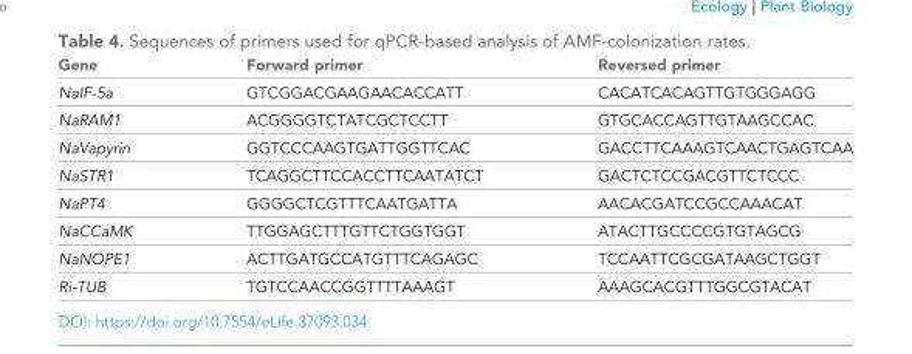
<table><thead><tr><td>Gene</td><td>Forward primer</td><td>Reversed primer</td></tr></thead><tbody><tr><td>NaIF-5a</td><td>GTCGGACGAAGAACACCATT</td><td>CACATCACAGTTGTGGGAGG</td></tr><tr><td>NaRAM1</td><td>ACGGGGTCTATCGCTCCTT</td><td>GTGCACCAGTTGTAAGCCAC</td></tr><tr><td>NaVapyrin</td><td>GGTCCCAAGTGATTGGTTCAC</td><td>GACCTTCAAAGTCAACTGAGTCAA</td></tr><tr><td>NaSTR1</td><td>TCAGGCTTCCACCTTCAATATCT</td><td>GACTCTCCGACGTTCTCCC</td></tr><tr><td>NaPT4</td><td>GGGGCTCGTTTCAATGATTA</td><td>AACACGATCCGCCAAACAT</td></tr><tr><td>NaCCaMK</td><td>TTGGAGCTTTGTTCTGGTGGT</td><td>ATACTTGCCCCGTGTAGCG</td></tr><tr><td>NaNOPE1</td><td>ACTTGATGCCATGTTTCAGAGC</td><td>TCCAATTCGCGATAAGCTGGT</td></tr><tr><td>Ri-TUB</td><td>TGTCCAACCGGTTTTAAAGT</td><td>AAAGCACGTTTGGCGTACAT</td></tr></tbody></table>